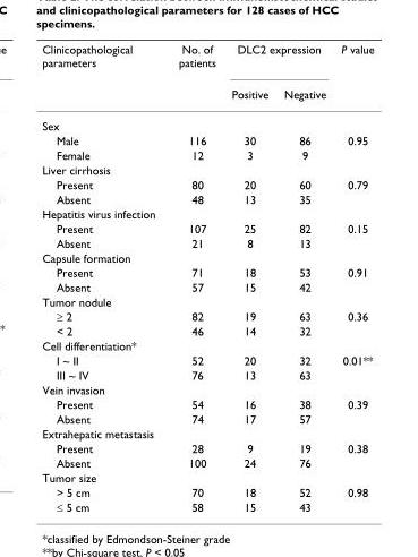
<table><thead><tr><td rowspan="2">Clinicopathological parameters</td><td rowspan="2">No. of patients</td><td colspan="2">DLC2 expression</td><td rowspan="2">P value</td></tr><tr><td>Positive</td><td>Negative</td></tr></thead><tbody><tr><td colspan="5">Sex</td></tr><tr><td>Male</td><td>116</td><td>30</td><td>86</td><td>0.95</td></tr><tr><td>Female</td><td>12</td><td>3</td><td>9</td><td></td></tr><tr><td colspan="5">Liver cirrhosis</td></tr><tr><td>Present</td><td>80</td><td>20</td><td>60</td><td>0.79</td></tr><tr><td>Absent</td><td>48</td><td>13</td><td>35</td><td></td></tr><tr><td colspan="5">Hepatitis virus infection</td></tr><tr><td>Present</td><td>107</td><td>25</td><td>82</td><td>0.15</td></tr><tr><td>Absent</td><td>21</td><td>8</td><td>13</td><td></td></tr><tr><td colspan="5">Capsule formation</td></tr><tr><td>Present</td><td>71</td><td>18</td><td>53</td><td>0.91</td></tr><tr><td>Absent</td><td>57</td><td>15</td><td>42</td><td></td></tr><tr><td colspan="5">Tumor nodule</td></tr><tr><td>≥ 2</td><td>82</td><td>19</td><td>63</td><td>0.36</td></tr><tr><td>&lt; 2</td><td>46</td><td>14</td><td>32</td><td></td></tr><tr><td colspan="5">Cell differentiation*</td></tr><tr><td>I ~ II</td><td>52</td><td>20</td><td>32</td><td>0.01**</td></tr><tr><td>III ~ IV</td><td>76</td><td>13</td><td>63</td><td></td></tr><tr><td colspan="5">Vein invasion</td></tr><tr><td>Present</td><td>54</td><td>16</td><td>38</td><td>0.39</td></tr><tr><td>Absent</td><td>74</td><td>17</td><td>57</td><td></td></tr><tr><td colspan="5">Extrahepatic metastasis</td></tr><tr><td>Present</td><td>28</td><td>9</td><td>19</td><td>0.38</td></tr><tr><td>Absent</td><td>100</td><td>24</td><td>76</td><td></td></tr><tr><td colspan="5">Tumor size</td></tr><tr><td>&gt; 5 cm</td><td>70</td><td>18</td><td>52</td><td>0.98</td></tr><tr><td>≤ 5 cm</td><td>58</td><td>15</td><td>43</td><td></td></tr></tbody></table>